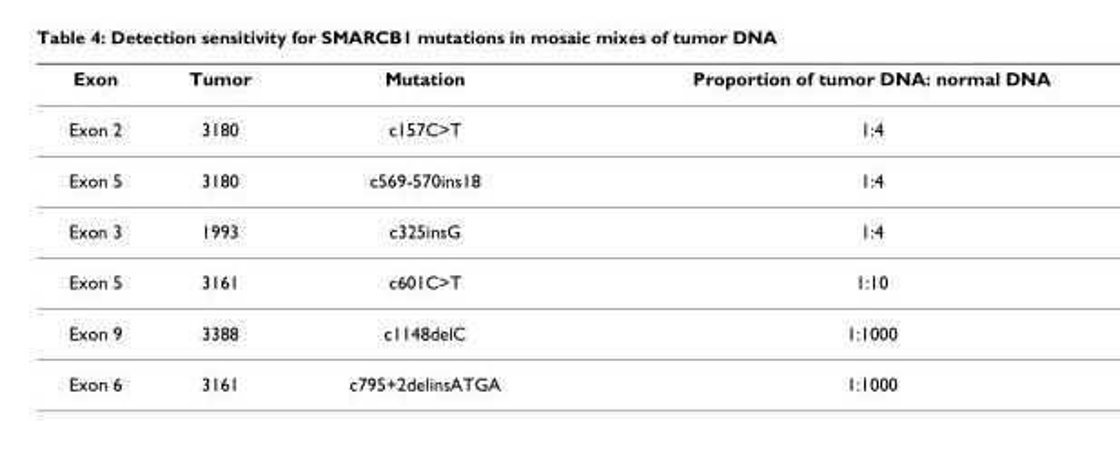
<table><thead><tr><td>Exon</td><td>Tumor</td><td>Mutation</td><td>Proportion of tumor DNA: normal DNA</td></tr></thead><tbody><tr><td>Exon 2</td><td>3180</td><td>c157C&gt;T</td><td>1:4</td></tr><tr><td>Exon 5</td><td>3180</td><td>c569-570ins18</td><td>1:4</td></tr><tr><td>Exon 3</td><td>1993</td><td>c325insG</td><td>1:4</td></tr><tr><td>Exon 5</td><td>3161</td><td>c601C&gt;T</td><td>1:10</td></tr><tr><td>Exon 9</td><td>3388</td><td>c1148delC</td><td>1:1000</td></tr><tr><td>Exon 6</td><td>3161</td><td>c795+2delinsATGA</td><td>1:1000</td></tr></tbody></table>